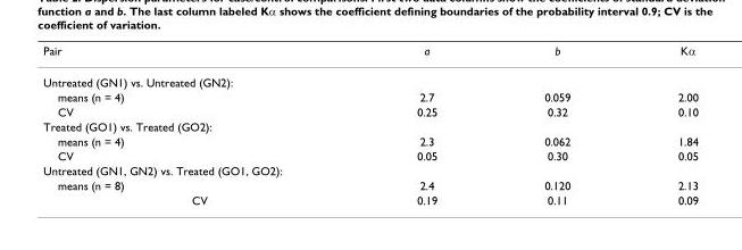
<table><thead><tr><td>Pair</td><td>a</td><td>b</td><td>Kα</td></tr></thead><tbody><tr><td colspan="4">Untreated (GN1) vs. Untreated (GN2):</td></tr><tr><td>means (n = 4)</td><td>2.7</td><td>0.059</td><td>2.00</td></tr><tr><td>CV</td><td>0.25</td><td>0.32</td><td>0.10</td></tr><tr><td colspan="4">Treated (GO1) vs. Treated (GO2):</td></tr><tr><td>means (n = 4)</td><td>2.3</td><td>0.062</td><td>1.84</td></tr><tr><td>CV</td><td>0.05</td><td>0.30</td><td>0.05</td></tr><tr><td colspan="4">Untreated (GN1, GN2) vs. Treated (GO1, GO2):</td></tr><tr><td>means (n = 8)</td><td>2.4</td><td>0.120</td><td>2.13</td></tr><tr><td>CV</td><td>0.19</td><td>0.11</td><td>0.09</td></tr></tbody></table>